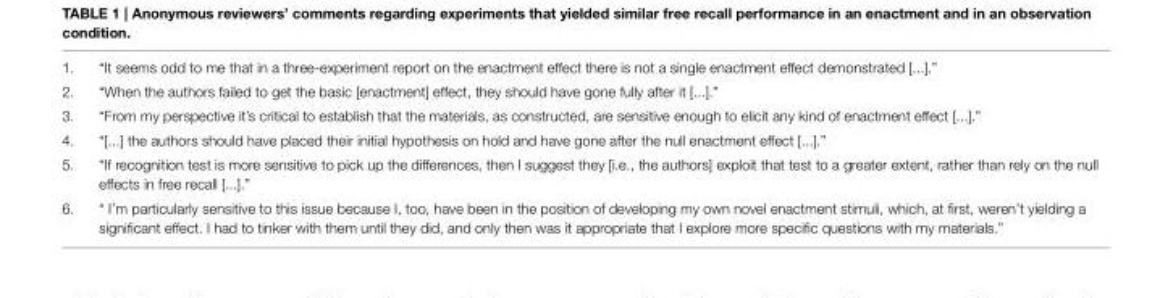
<table><tbody><tr><td>1.</td><td>“It seems odd to me that in a three-experiment report on the enactment effect there is not a single enactment effect demonstrated [...].”</td></tr><tr><td>2.</td><td>“When the authors failed to get the basic [enactment] effect, they should have gone fully after it [...].”</td></tr><tr><td>3.</td><td>“From my perspective it’s critical to establish that the materials, as constructed, are sensitive enough to elicit any kind of enactment effect [...].”</td></tr><tr><td>4.</td><td>“[...] the authors should have placed their initial hypothesis on hold and have gone after the null enactment effect [...].”</td></tr><tr><td>5.</td><td>“If recognition test is more sensitive to pick up the differences, then I suggest they [i.e., the authors] exploit that test to a greater extent, rather than rely on the null effects in free recall [...].”</td></tr><tr><td>6.</td><td>“ I’m particularly sensitive to this issue because I, too, have been in the position of developing my own novel enactment stimuli, which, at first, weren’t yielding a significant effect. I had to tinker with them until they did, and only then was it appropriate that I explore more specific questions with my materials.”</td></tr></tbody></table>